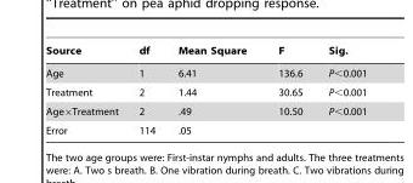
<table><thead><tr><td>Source</td><td>df</td><td>Mean Square</td><td>F</td><td>Sig.</td></tr></thead><tbody><tr><td>Age</td><td>1</td><td>6.41</td><td>136.6</td><td>P&lt;0.001</td></tr><tr><td>Treatment</td><td>2</td><td>1.44</td><td>30.65</td><td>P&lt;0.001</td></tr><tr><td>Age×Treatment</td><td>2</td><td>.49</td><td>10.50</td><td>P&lt;0.001</td></tr><tr><td>Error</td><td>114</td><td>.05</td><td></td><td></td></tr></tbody></table>